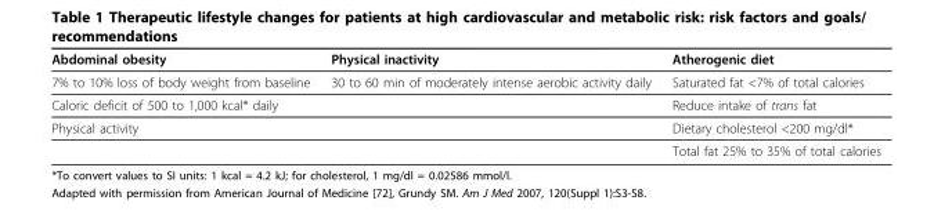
<table><thead><tr><td>Abdominal obesity</td><td>Physical inactivity</td><td>Atherogenic diet</td></tr></thead><tbody><tr><td>7% to 10% loss of body weight from baseline</td><td>30 to 60 min of moderately intense aerobic activity daily</td><td>Saturated fat &lt;7% of total calories</td></tr><tr><td>Caloric deficit of 500 to 1,000 kcal* daily</td><td></td><td>Reduce intake of trans fat</td></tr><tr><td rowspan="2">Physical activity</td><td></td><td>Dietary cholesterol &lt;200 mg/dl*</td></tr><tr><td></td><td>Total fat 25% to 35% of total calories</td></tr></tbody></table>